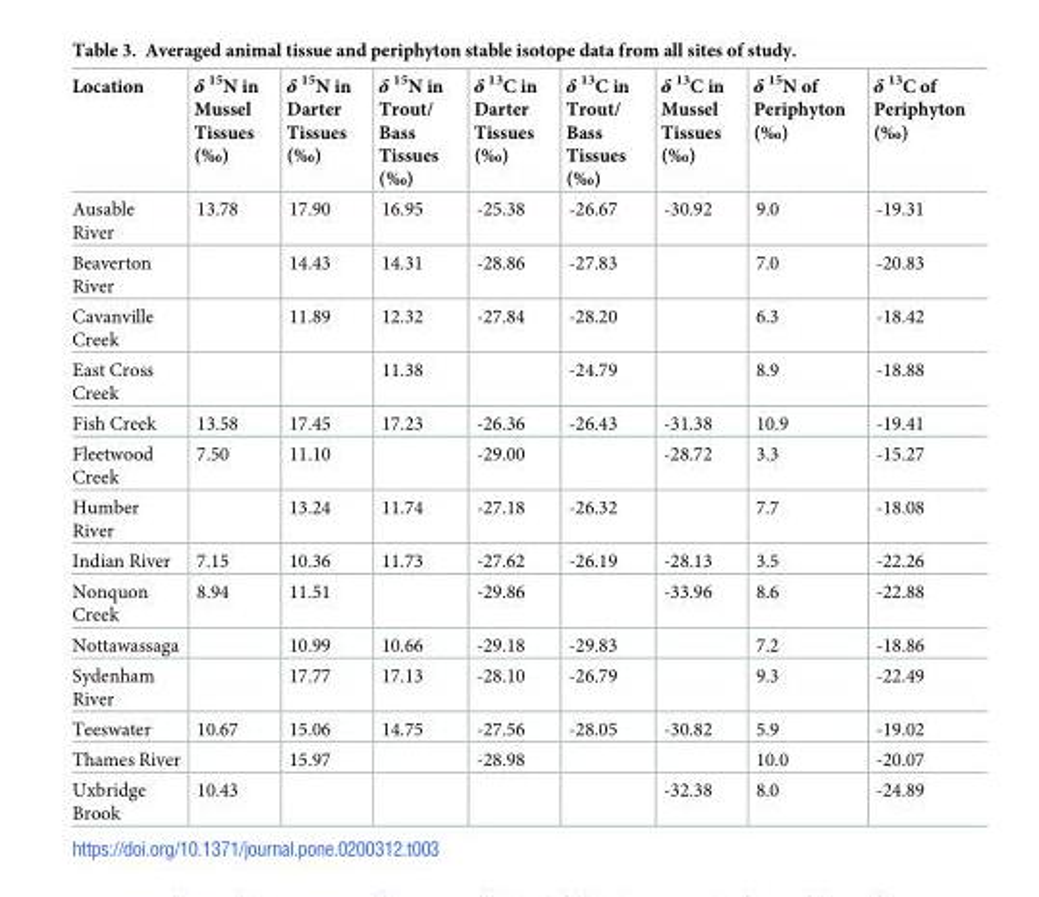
<table><thead><tr><td>Location</td><td>δ <sup>15</sup>N in Mussel Tissues (‰)</td><td>δ <sup>15</sup>N in Darter Tissues (‰)</td><td>δ <sup>15</sup>N in Trout/ Bass Tissues (‰)</td><td>δ <sup>13</sup>C in Darter Tissues (‰)</td><td>δ <sup>13</sup>C in Trout/ Bass Tissues (‰)</td><td>δ <sup>13</sup>C in Mussel Tissues (‰)</td><td>δ <sup>15</sup>N of Periphyton (‰)</td><td>δ <sup>13</sup>C of Periphyton (‰)</td></tr></thead><tbody><tr><td>Ausable River</td><td>13.78</td><td>17.90</td><td>16.95</td><td>-25.38</td><td>-26.67</td><td>-30.92</td><td>9.0</td><td>-19.31</td></tr><tr><td>Beaverton River</td><td></td><td>14.43</td><td>14.31</td><td>-28.86</td><td>-27.83</td><td></td><td>7.0</td><td>-20.83</td></tr><tr><td>Cavanville Creek</td><td></td><td>11.89</td><td>12.32</td><td>-27.84</td><td>-28.20</td><td></td><td>6.3</td><td>-18.42</td></tr><tr><td>East Cross Creek</td><td></td><td></td><td>11.38</td><td></td><td>-24.79</td><td></td><td>8.9</td><td>-18.88</td></tr><tr><td>Fish Creek</td><td>13.58</td><td>17.45</td><td>17.23</td><td>-26.36</td><td>-26.43</td><td>-31.38</td><td>10.9</td><td>-19.41</td></tr><tr><td>Fleetwood Creek</td><td>7.50</td><td>11.10</td><td></td><td>-29.00</td><td></td><td>-28.72</td><td>3.3</td><td>-15.27</td></tr><tr><td>Humber River</td><td></td><td>13.24</td><td>11.74</td><td>-27.18</td><td>-26.32</td><td></td><td>7.7</td><td>-18.08</td></tr><tr><td>Indian River</td><td>7.15</td><td>10.36</td><td>11.73</td><td>-27.62</td><td>-26.19</td><td>-28.13</td><td>3.5</td><td>-22.26</td></tr><tr><td>Nonquon Creek</td><td>8.94</td><td>11.51</td><td></td><td>-29.86</td><td></td><td>-33.96</td><td>8.6</td><td>-22.88</td></tr><tr><td>Nottawassaga</td><td></td><td>10.99</td><td>10.66</td><td>-29.18</td><td>-29.83</td><td></td><td>7.2</td><td>-18.86</td></tr><tr><td>Sydenham River</td><td></td><td>17.77</td><td>17.13</td><td>-28.10</td><td>-26.79</td><td></td><td>9.3</td><td>-22.49</td></tr><tr><td>Teeswater</td><td>10.67</td><td>15.06</td><td>14.75</td><td>-27.56</td><td>-28.05</td><td>-30.82</td><td>5.9</td><td>-19.02</td></tr><tr><td>Thames River</td><td></td><td>15.97</td><td></td><td>-28.98</td><td></td><td></td><td>10.0</td><td>-20.07</td></tr><tr><td>Uxbridge Brook</td><td>10.43</td><td></td><td></td><td></td><td></td><td>-32.38</td><td>8.0</td><td>-24.89</td></tr></tbody></table>